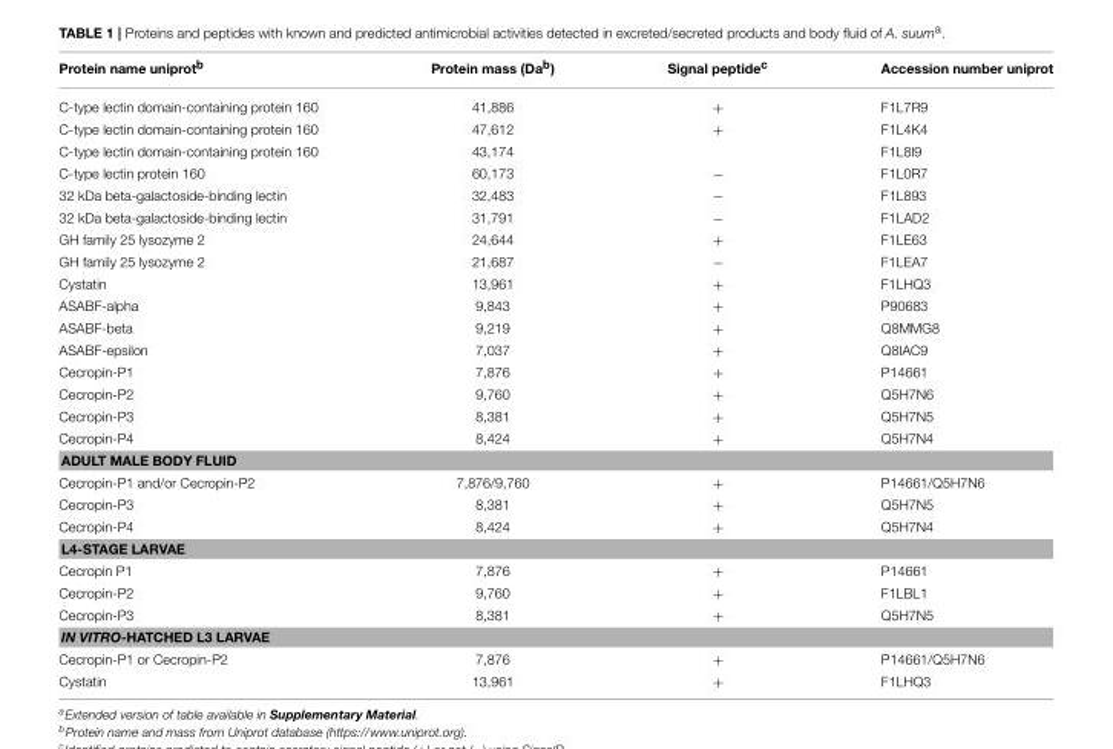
<table><thead><tr><td>Protein name uniprot<sup>b</sup></td><td>Protein mass (Da<sup>b</sup>)</td><td>Signal peptide<sup>c</sup></td><td>Accession number uniprot</td></tr></thead><tbody><tr><td>C-type lectin domain-containing protein 160</td><td>41,886</td><td>+</td><td>F1L7R9</td></tr><tr><td>C-type lectin domain-containing protein 160</td><td>47,612</td><td>+</td><td>F1L4K4</td></tr><tr><td>C-type lectin domain-containing protein 160</td><td>43,174</td><td></td><td>F1L8I9</td></tr><tr><td>C-type lectin protein 160</td><td>60,173</td><td>−</td><td>F1L0R7</td></tr><tr><td>32 kDa beta-galactoside-binding lectin</td><td>32,483</td><td>−</td><td>F1L893</td></tr><tr><td>32 kDa beta-galactoside-binding lectin</td><td>31,791</td><td>−</td><td>F1LAD2</td></tr><tr><td>GH family 25 lysozyme 2</td><td>24,644</td><td>+</td><td>F1LE63</td></tr><tr><td>GH family 25 lysozyme 2</td><td>21,687</td><td>−</td><td>F1LEA7</td></tr><tr><td>Cystatin</td><td>13,961</td><td>+</td><td>F1LHQ3</td></tr><tr><td>ASABF-alpha</td><td>9,843</td><td>+</td><td>P90683</td></tr><tr><td>ASABF-beta</td><td>9,219</td><td>+</td><td>Q8MMG8</td></tr><tr><td>ASABF-epsilon</td><td>7,037</td><td>+</td><td>Q8IAC9</td></tr><tr><td>Cecropin-P1</td><td>7,876</td><td>+</td><td>P14661</td></tr><tr><td>Cecropin-P2</td><td>9,760</td><td>+</td><td>Q5H7N6</td></tr><tr><td>Cecropin-P3</td><td>8,381</td><td>+</td><td>Q5H7N5</td></tr><tr><td>Cecropin-P4</td><td>8,424</td><td>+</td><td>Q5H7N4</td></tr><tr><td colspan="4">ADULT MALE BODY FLUID</td></tr><tr><td>Cecropin-P1 and/or Cecropin-P2</td><td>7,876/9,760</td><td>+</td><td>P14661/Q5H7N6</td></tr><tr><td>Cecropin-P3</td><td>8,381</td><td>+</td><td>Q5H7N5</td></tr><tr><td>Cecropin-P4</td><td>8,424</td><td>+</td><td>Q5H7N4</td></tr><tr><td colspan="4">L4-STAGE LARVAE</td></tr><tr><td>Cecropin P1</td><td>7,876</td><td>+</td><td>P14661</td></tr><tr><td>Cecropin-P2</td><td>9,760</td><td>+</td><td>F1LBL1</td></tr><tr><td>Cecropin-P3</td><td>8,381</td><td>+</td><td>Q5H7N5</td></tr><tr><td colspan="4">IN VITRO-HATCHED L3 LARVAE</td></tr><tr><td>Cecropin-P1 or Cecropin-P2</td><td>7,876</td><td>+</td><td>P14661/Q5H7N6</td></tr><tr><td>Cystatin</td><td>13,961</td><td>+</td><td>F1LHQ3</td></tr></tbody></table>